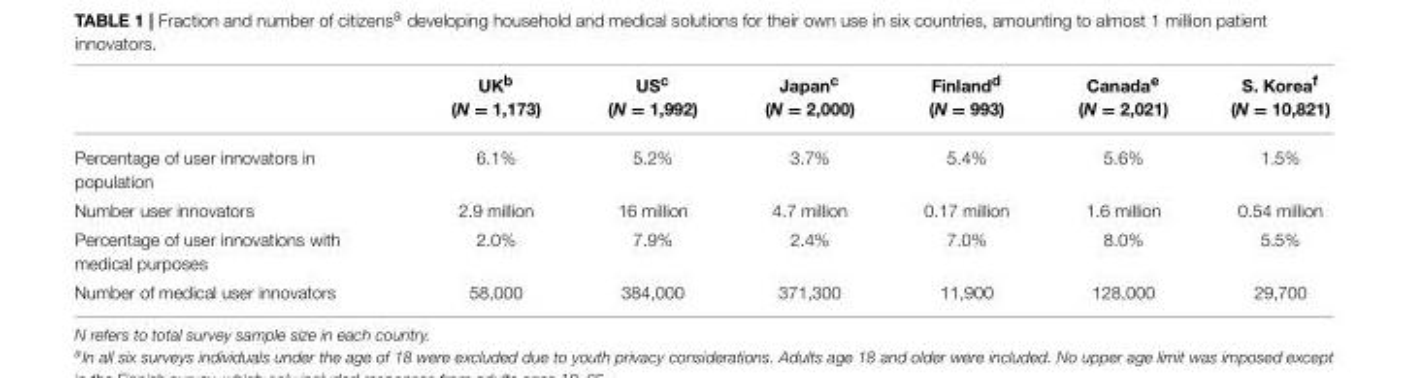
<table><thead><tr><td></td><td>UK<sup>b</sup> (N = 1,173)</td><td>US<sup>c</sup> (N = 1,992)</td><td>Japan<sup>c</sup> (N = 2,000)</td><td>Finland<sup>d</sup> (N = 993)</td><td>Canada<sup>e</sup> (N = 2,021)</td><td>S. Korea<sup>f</sup> (N = 10,821)</td></tr></thead><tbody><tr><td>Percentage of user innovators in population</td><td>6.1%</td><td>5.2%</td><td>3.7%</td><td>5.4%</td><td>5.6%</td><td>1.5%</td></tr><tr><td>Number user innovators</td><td>2.9 million</td><td>16 million</td><td>4.7 million</td><td>0.17 million</td><td>1.6 million</td><td>0.54 million</td></tr><tr><td>Percentage of user innovations with medical purposes</td><td>2.0%</td><td>7.9%</td><td>2.4%</td><td>7.0%</td><td>8.0%</td><td>5.5%</td></tr><tr><td>Number of medical user innovators</td><td>58,000</td><td>384,000</td><td>371,300</td><td>11,900</td><td>128,000</td><td>29,700</td></tr></tbody></table>